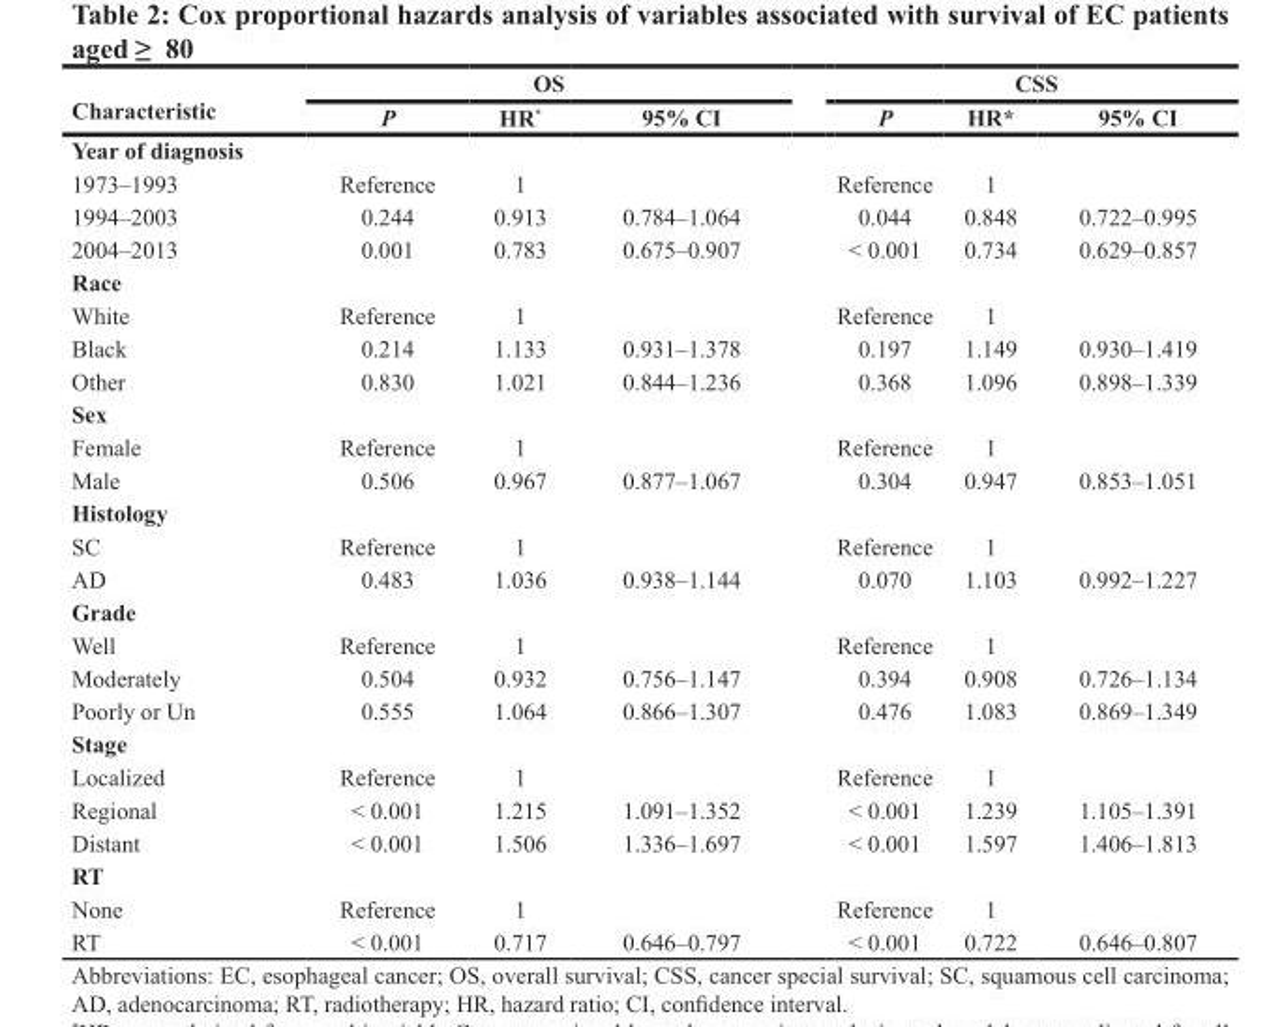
<table><thead><tr><td rowspan="2">Characteristic</td><td colspan="3">OS</td><td colspan="3">CSS</td></tr><tr><td>P</td><td>HR*</td><td>95% CI</td><td>P</td><td>HR*</td><td>95% CI</td></tr></thead><tbody><tr><td colspan="7">Year of diagnosis</td></tr><tr><td>1973–1993</td><td>Reference</td><td>1</td><td></td><td>Reference</td><td>1</td><td></td></tr><tr><td>1994–2003</td><td>0.244</td><td>0.913</td><td>0.784–1.064</td><td>0.044</td><td>0.848</td><td>0.722–0.995</td></tr><tr><td>2004–2013</td><td>0.001</td><td>0.783</td><td>0.675–0.907</td><td>&lt; 0.001</td><td>0.734</td><td>0.629–0.857</td></tr><tr><td colspan="7">Race</td></tr><tr><td>White</td><td>Reference</td><td>1</td><td></td><td>Reference</td><td>1</td><td></td></tr><tr><td>Black</td><td>0.214</td><td>1.133</td><td>0.931–1.378</td><td>0.197</td><td>1.149</td><td>0.930–1.419</td></tr><tr><td>Other</td><td>0.830</td><td>1.021</td><td>0.844–1.236</td><td>0.368</td><td>1.096</td><td>0.898–1.339</td></tr><tr><td colspan="7">Sex</td></tr><tr><td>Female</td><td>Reference</td><td>1</td><td></td><td>Reference</td><td>1</td><td></td></tr><tr><td>Male</td><td>0.506</td><td>0.967</td><td>0.877–1.067</td><td>0.304</td><td>0.947</td><td>0.853–1.051</td></tr><tr><td colspan="7">Histology</td></tr><tr><td>SC</td><td>Reference</td><td>1</td><td></td><td>Reference</td><td>1</td><td></td></tr><tr><td>AD</td><td>0.483</td><td>1.036</td><td>0.938–1.144</td><td>0.070</td><td>1.103</td><td>0.992–1.227</td></tr><tr><td colspan="7">Grade</td></tr><tr><td>Well</td><td>Reference</td><td>1</td><td></td><td>Reference</td><td>1</td><td></td></tr><tr><td>Moderately</td><td>0.504</td><td>0.932</td><td>0.756–1.147</td><td>0.394</td><td>0.908</td><td>0.726–1.134</td></tr><tr><td>Poorly or Un</td><td>0.555</td><td>1.064</td><td>0.866–1.307</td><td>0.476</td><td>1.083</td><td>0.869–1.349</td></tr><tr><td colspan="7">Stage</td></tr><tr><td>Localized</td><td>Reference</td><td>1</td><td></td><td>Reference</td><td>1</td><td></td></tr><tr><td>Regional</td><td>&lt; 0.001</td><td>1.215</td><td>1.091–1.352</td><td>&lt; 0.001</td><td>1.239</td><td>1.105–1.391</td></tr><tr><td>Distant</td><td>&lt; 0.001</td><td>1.506</td><td>1.336–1.697</td><td>&lt; 0.001</td><td>1.597</td><td>1.406–1.813</td></tr><tr><td colspan="7">RT</td></tr><tr><td>None</td><td>Reference</td><td>1</td><td></td><td>Reference</td><td>1</td><td></td></tr><tr><td>RT</td><td>&lt; 0.001</td><td>0.717</td><td>0.646–0.797</td><td>&lt; 0.001</td><td>0.722</td><td>0.646–0.807</td></tr></tbody></table>